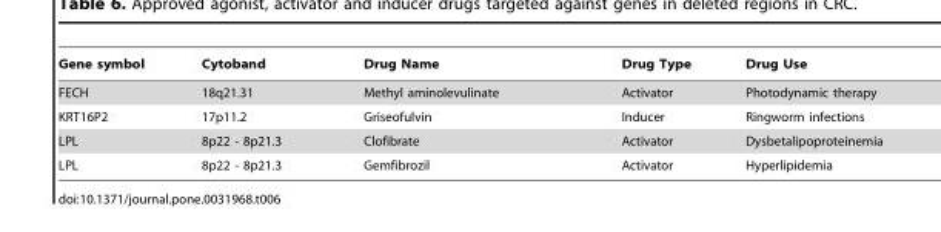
<table><thead><tr><td>Gene symbol</td><td>Cytoband</td><td>Drug Name</td><td>Drug Type</td><td>Drug Use</td></tr></thead><tbody><tr><td>FECH</td><td>18q21.31</td><td>Methyl aminolevulinate</td><td>Activator</td><td>Photodynamic therapy</td></tr><tr><td>KRT16P2</td><td>17p11.2</td><td>Griseofulvin</td><td>Inducer</td><td>Ringworm infections</td></tr><tr><td>LPL</td><td>8p22 - 8p21.3</td><td>Clofibrate</td><td>Activator</td><td>Dysbetalipoproteinemia</td></tr><tr><td>LPL</td><td>8p22 - 8p21.3</td><td>Gemfibrozil</td><td>Activator</td><td>Hyperlipidemia</td></tr></tbody></table>